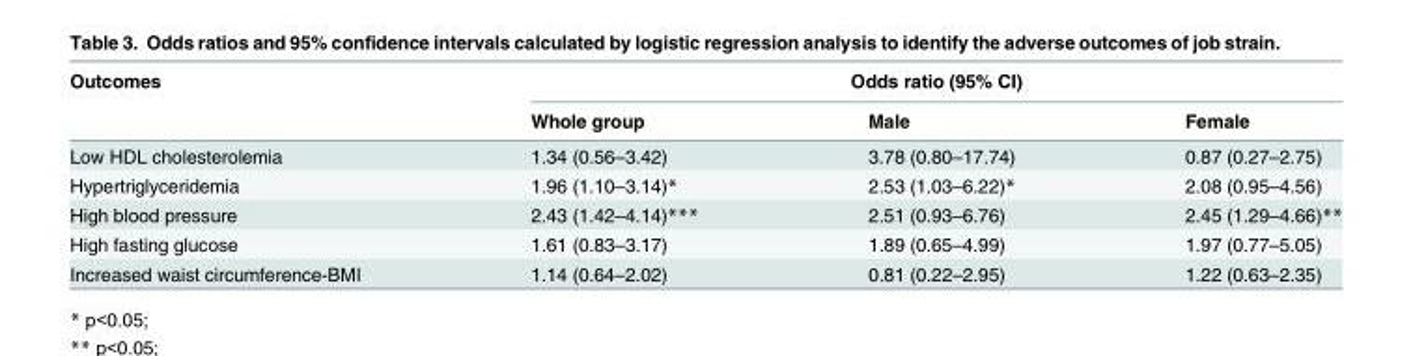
<table><thead><tr><td rowspan="2">Outcomes</td><td colspan="3">Odds ratio (95% CI)</td></tr><tr><td>Whole group</td><td>Male</td><td>Female</td></tr></thead><tbody><tr><td>Low HDL cholesterolemia</td><td>1.34 (0.56–3.42)</td><td>3.78 (0.80–17.74)</td><td>0.87 (0.27–2.75)</td></tr><tr><td>Hypertriglyceridemia</td><td>1.96 (1.10–3.14)*</td><td>2.53 (1.03–6.22)*</td><td>2.08 (0.95–4.56)</td></tr><tr><td>High blood pressure</td><td>2.43 (1.42–4.14)***</td><td>2.51 (0.93–6.76)</td><td>2.45 (1.29–4.66)**</td></tr><tr><td>High fasting glucose</td><td>1.61 (0.83–3.17)</td><td>1.89 (0.65–4.99)</td><td>1.97 (0.77–5.05)</td></tr><tr><td>Increased waist circumference-BMI</td><td>1.14 (0.64–2.02)</td><td>0.81 (0.22–2.95)</td><td>1.22 (0.63–2.35)</td></tr></tbody></table>